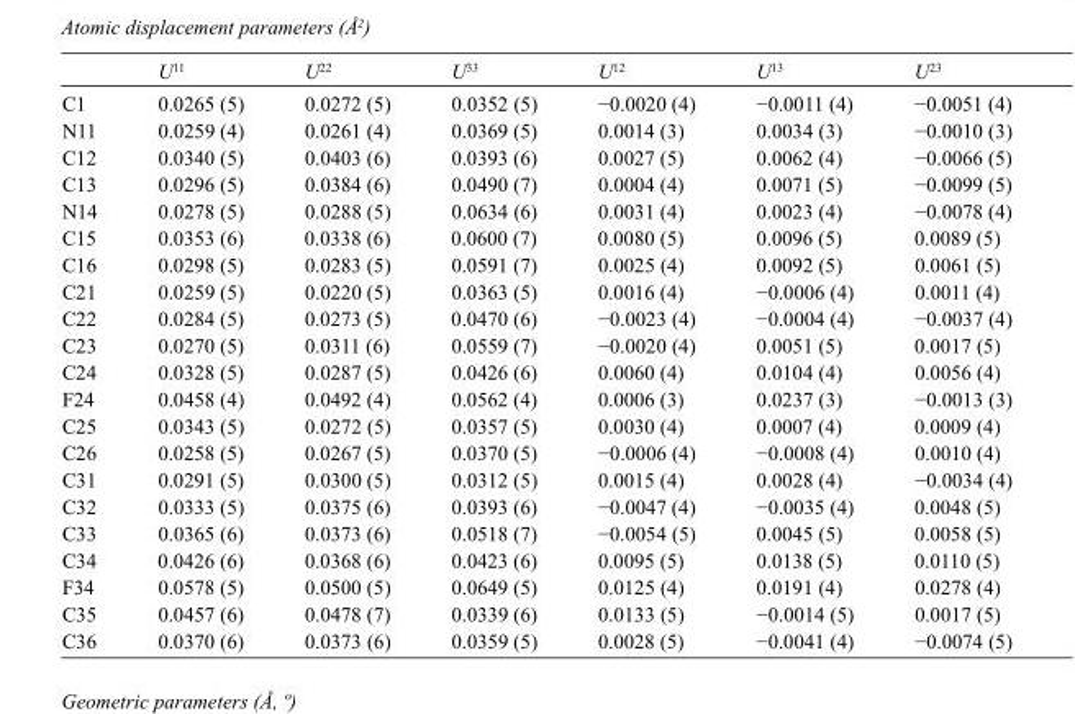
<table><thead><tr><td></td><td>U<sup>11</sup></td><td>U<sup>22</sup></td><td>U<sup>33</sup></td><td>U<sup>12</sup></td><td>U<sup>13</sup></td><td>U<sup>23</sup></td></tr></thead><tbody><tr><td>C1</td><td>0.0265 (5)</td><td>0.0272 (5)</td><td>0.0352 (5)</td><td>−0.0020 (4)</td><td>−0.0011 (4)</td><td>−0.0051 (4)</td></tr><tr><td>N11</td><td>0.0259 (4)</td><td>0.0261 (4)</td><td>0.0369 (5)</td><td>0.0014 (3)</td><td>0.0034 (3)</td><td>−0.0010 (3)</td></tr><tr><td>C12</td><td>0.0340 (5)</td><td>0.0403 (6)</td><td>0.0393 (6)</td><td>0.0027 (5)</td><td>0.0062 (4)</td><td>−0.0066 (5)</td></tr><tr><td>C13</td><td>0.0296 (5)</td><td>0.0384 (6)</td><td>0.0490 (7)</td><td>0.0004 (4)</td><td>0.0071 (5)</td><td>−0.0099 (5)</td></tr><tr><td>N14</td><td>0.0278 (5)</td><td>0.0288 (5)</td><td>0.0634 (6)</td><td>0.0031 (4)</td><td>0.0023 (4)</td><td>−0.0078 (4)</td></tr><tr><td>C15</td><td>0.0353 (6)</td><td>0.0338 (6)</td><td>0.0600 (7)</td><td>0.0080 (5)</td><td>0.0096 (5)</td><td>0.0089 (5)</td></tr><tr><td>C16</td><td>0.0298 (5)</td><td>0.0283 (5)</td><td>0.0591 (7)</td><td>0.0025 (4)</td><td>0.0092 (5)</td><td>0.0061 (5)</td></tr><tr><td>C21</td><td>0.0259 (5)</td><td>0.0220 (5)</td><td>0.0363 (5)</td><td>0.0016 (4)</td><td>−0.0006 (4)</td><td>0.0011 (4)</td></tr><tr><td>C22</td><td>0.0284 (5)</td><td>0.0273 (5)</td><td>0.0470 (6)</td><td>−0.0023 (4)</td><td>−0.0004 (4)</td><td>−0.0037 (4)</td></tr><tr><td>C23</td><td>0.0270 (5)</td><td>0.0311 (6)</td><td>0.0559 (7)</td><td>−0.0020 (4)</td><td>0.0051 (5)</td><td>0.0017 (5)</td></tr><tr><td>C24</td><td>0.0328 (5)</td><td>0.0287 (5)</td><td>0.0426 (6)</td><td>0.0060 (4)</td><td>0.0104 (4)</td><td>0.0056 (4)</td></tr><tr><td>F24</td><td>0.0458 (4)</td><td>0.0492 (4)</td><td>0.0562 (4)</td><td>0.0006 (3)</td><td>0.0237 (3)</td><td>−0.0013 (3)</td></tr><tr><td>C25</td><td>0.0343 (5)</td><td>0.0272 (5)</td><td>0.0357 (5)</td><td>0.0030 (4)</td><td>0.0007 (4)</td><td>0.0009 (4)</td></tr><tr><td>C26</td><td>0.0258 (5)</td><td>0.0267 (5)</td><td>0.0370 (5)</td><td>−0.0006 (4)</td><td>−0.0008 (4)</td><td>0.0010 (4)</td></tr><tr><td>C31</td><td>0.0291 (5)</td><td>0.0300 (5)</td><td>0.0312 (5)</td><td>0.0015 (4)</td><td>0.0028 (4)</td><td>−0.0034 (4)</td></tr><tr><td>C32</td><td>0.0333 (5)</td><td>0.0375 (6)</td><td>0.0393 (6)</td><td>−0.0047 (4)</td><td>−0.0035 (4)</td><td>0.0048 (5)</td></tr><tr><td>C33</td><td>0.0365 (6)</td><td>0.0373 (6)</td><td>0.0518 (7)</td><td>−0.0054 (5)</td><td>0.0045 (5)</td><td>0.0058 (5)</td></tr><tr><td>C34</td><td>0.0426 (6)</td><td>0.0368 (6)</td><td>0.0423 (6)</td><td>0.0095 (5)</td><td>0.0138 (5)</td><td>0.0110 (5)</td></tr><tr><td>F34</td><td>0.0578 (5)</td><td>0.0500 (5)</td><td>0.0649 (5)</td><td>0.0125 (4)</td><td>0.0191 (4)</td><td>0.0278 (4)</td></tr><tr><td>C35</td><td>0.0457 (6)</td><td>0.0478 (7)</td><td>0.0339 (6)</td><td>0.0133 (5)</td><td>−0.0014 (5)</td><td>0.0017 (5)</td></tr><tr><td>C36</td><td>0.0370 (6)</td><td>0.0373 (6)</td><td>0.0359 (5)</td><td>0.0028 (5)</td><td>−0.0041 (4)</td><td>−0.0074 (5)</td></tr></tbody></table>